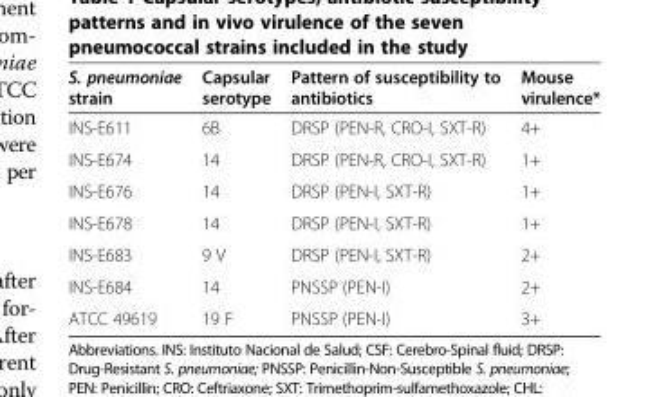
<table><thead><tr><td>S. pneumoniae strain</td><td>Capsular serotype</td><td>Pattern of susceptibility to antibiotics</td><td>Mouse virulence*</td></tr></thead><tbody><tr><td>INS-E611</td><td>6B</td><td>DRSP (PEN-R, CRO-I, SXT-R)</td><td>4+</td></tr><tr><td>INS-E674</td><td>14</td><td>DRSP (PEN-R, CRO-I, SXT-R)</td><td>1+</td></tr><tr><td>INS-E676</td><td>14</td><td>DRSP (PEN-I, SXT-R)</td><td>1+</td></tr><tr><td>INS-E678</td><td>14</td><td>DRSP (PEN-I, SXT-R)</td><td>1+</td></tr><tr><td>INS-E683</td><td>9 V</td><td>DRSP (PEN-I, SXT-R)</td><td>2+</td></tr><tr><td>INS-E684</td><td>14</td><td>PNSSP (PEN-I)</td><td>2+</td></tr><tr><td>ATCC 49619</td><td>19 F</td><td>PNSSP (PEN-I)</td><td>3+</td></tr></tbody></table>